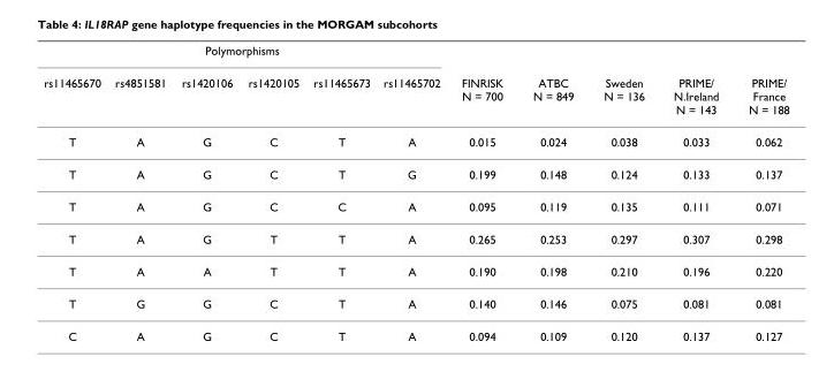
<table><thead><tr><td colspan="6">Polymorphisms</td><td rowspan="2">FINRISK N = 700</td><td rowspan="2">ATBC N = 849</td><td rowspan="2">Sweden N = 136</td><td rowspan="2">PRIME/ N.Ireland N = 143</td><td rowspan="2">PRIME/ France N = 188</td></tr><tr><td>rs11465670</td><td>rs4851581</td><td>rs1420106</td><td>rs1420105</td><td>rs11465673</td><td>rs11465702</td></tr></thead><tbody><tr><td>T</td><td>A</td><td>G</td><td>C</td><td>T</td><td>A</td><td>0.015</td><td>0.024</td><td>0.038</td><td>0.033</td><td>0.062</td></tr><tr><td>T</td><td>A</td><td>G</td><td>C</td><td>T</td><td>G</td><td>0.199</td><td>0.148</td><td>0.124</td><td>0.133</td><td>0.137</td></tr><tr><td>T</td><td>A</td><td>G</td><td>C</td><td>C</td><td>A</td><td>0.095</td><td>0.119</td><td>0.135</td><td>0.111</td><td>0.071</td></tr><tr><td>T</td><td>A</td><td>G</td><td>T</td><td>T</td><td>A</td><td>0.265</td><td>0.253</td><td>0.297</td><td>0.307</td><td>0.298</td></tr><tr><td>T</td><td>A</td><td>A</td><td>T</td><td>T</td><td>A</td><td>0.190</td><td>0.198</td><td>0.210</td><td>0.196</td><td>0.220</td></tr><tr><td>T</td><td>G</td><td>G</td><td>C</td><td>T</td><td>A</td><td>0.140</td><td>0.146</td><td>0.075</td><td>0.081</td><td>0.081</td></tr><tr><td>C</td><td>A</td><td>G</td><td>C</td><td>T</td><td>A</td><td>0.094</td><td>0.109</td><td>0.120</td><td>0.137</td><td>0.127</td></tr></tbody></table>